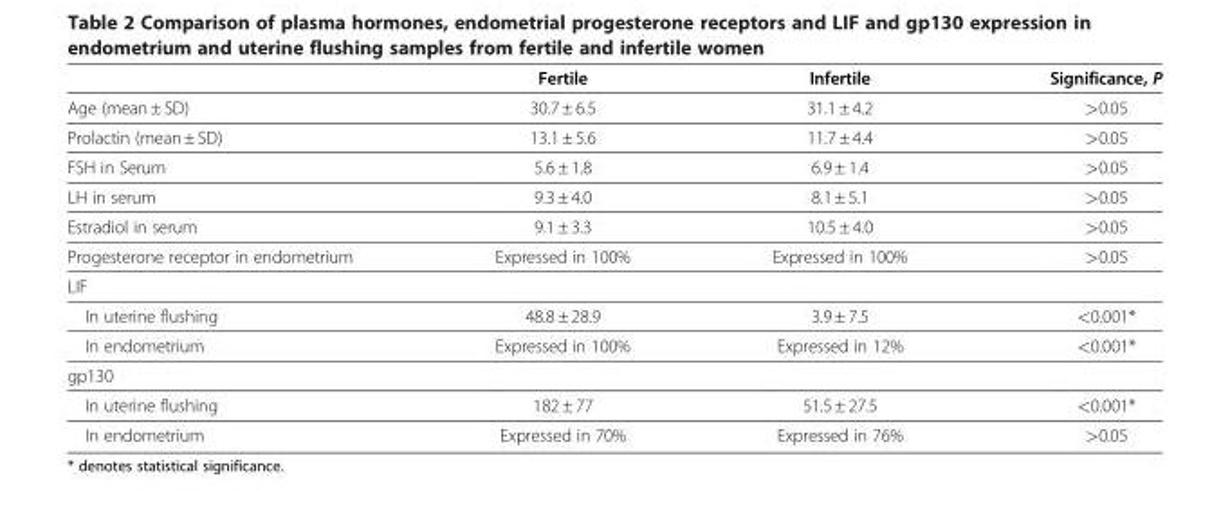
<table><thead><tr><td></td><td>Fertile</td><td>Infertile</td><td>Significance, P</td></tr></thead><tbody><tr><td>Age (mean ± SD)</td><td>30.7 ± 6.5</td><td>31.1 ± 4.2</td><td>&gt;0.05</td></tr><tr><td>Prolactin (mean ± SD)</td><td>13.1 ± 5.6</td><td>11.7 ± 4.4</td><td>&gt;0.05</td></tr><tr><td>FSH in Serum</td><td>5.6 ± 1.8</td><td>6.9 ± 1.4</td><td>&gt;0.05</td></tr><tr><td>LH in serum</td><td>9.3 ± 4.0</td><td>8.1 ± 5.1</td><td>&gt;0.05</td></tr><tr><td>Estradiol in serum</td><td>9.1 ± 3.3</td><td>10.5 ± 4.0</td><td>&gt;0.05</td></tr><tr><td>Progesterone receptor in endometrium</td><td>Expressed in 100%</td><td>Expressed in 100%</td><td>&gt;0.05</td></tr><tr><td colspan="4">LIF</td></tr><tr><td>In uterine flushing</td><td>48.8 ± 28.9</td><td>3.9 ± 7.5</td><td>&lt;0.001*</td></tr><tr><td>In endometrium</td><td>Expressed in 100%</td><td>Expressed in 12%</td><td>&lt;0.001*</td></tr><tr><td colspan="4">gp130</td></tr><tr><td>In uterine flushing</td><td>182 ± 77</td><td>51.5 ± 27.5</td><td>&lt;0.001*</td></tr><tr><td>In endometrium</td><td>Expressed in 70%</td><td>Expressed in 76%</td><td>&gt;0.05</td></tr></tbody></table>